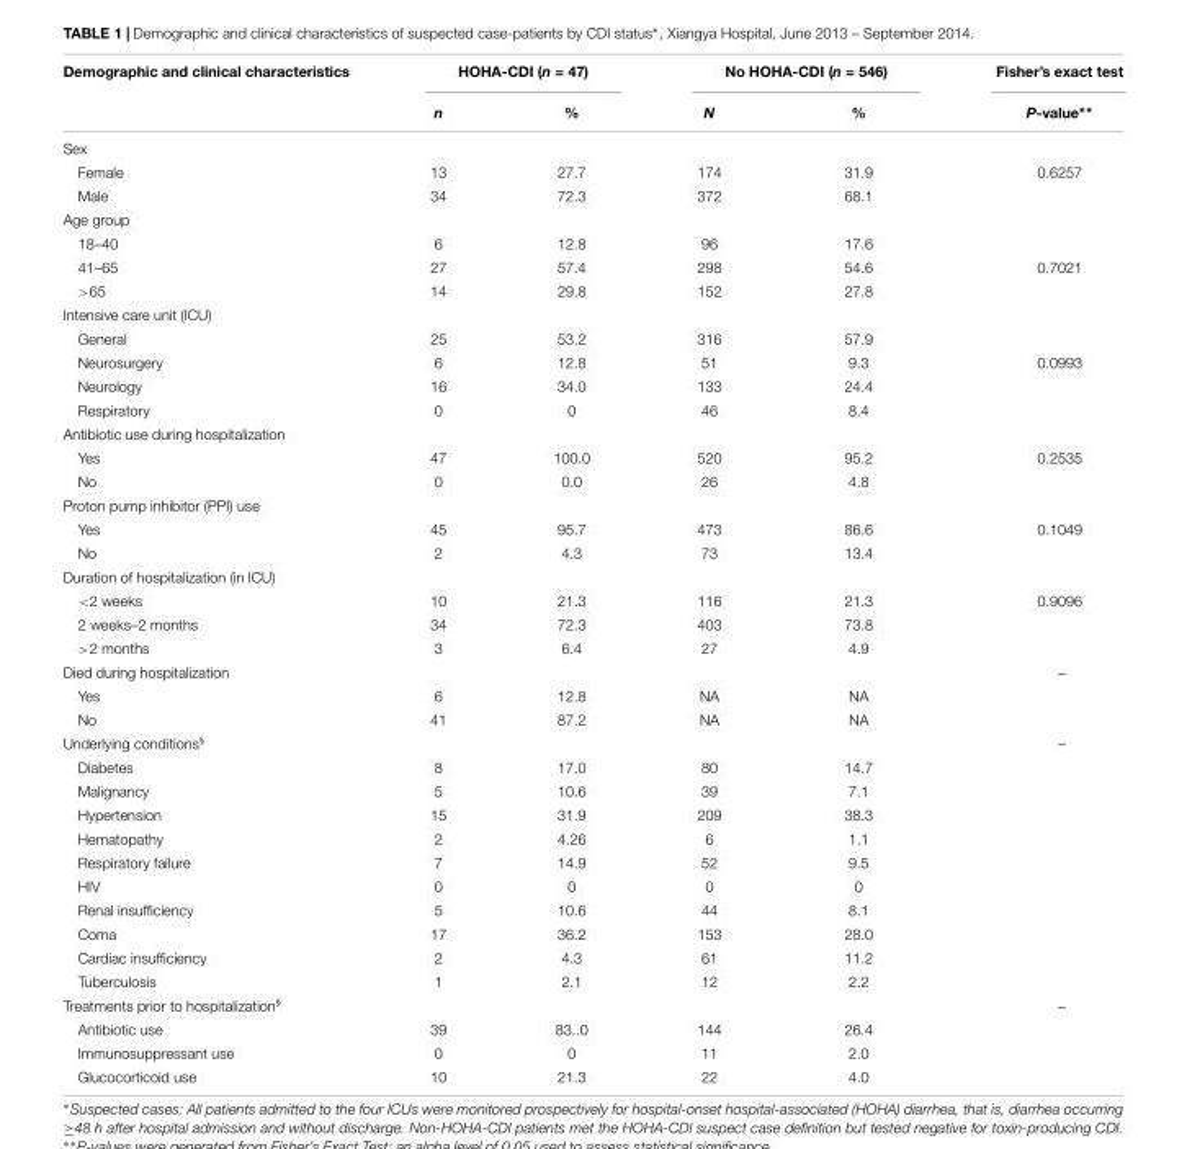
<table><thead><tr><td rowspan="2">Demographic and clinical characteristics</td><td colspan="2">HOHA-CDI (n = 47)</td><td colspan="2">No HOHA-CDI (n = 546)</td><td rowspan="2">Fisher’s exact test P-value∗∗</td></tr><tr><td>n</td><td>%</td><td>N</td><td>%</td></tr></thead><tbody><tr><td colspan="6">Sex</td></tr><tr><td>Female</td><td>13</td><td>27.7</td><td>174</td><td>31.9</td><td>0.6257</td></tr><tr><td>Male</td><td>34</td><td>72.3</td><td>372</td><td>68.1</td><td></td></tr><tr><td colspan="6">Age group</td></tr><tr><td>18–40</td><td>6</td><td>12.8</td><td>96</td><td>17.6</td><td></td></tr><tr><td>41–65</td><td>27</td><td>57.4</td><td>298</td><td>54.6</td><td>0.7021</td></tr><tr><td>&gt;65</td><td>14</td><td>29.8</td><td>152</td><td>27.8</td><td></td></tr><tr><td colspan="6">Intensive care unit (ICU)</td></tr><tr><td>General</td><td>25</td><td>53.2</td><td>316</td><td>57.9</td><td></td></tr><tr><td>Neurosurgery</td><td>6</td><td>12.8</td><td>51</td><td>9.3</td><td>0.0993</td></tr><tr><td>Neurology</td><td>16</td><td>34.0</td><td>133</td><td>24.4</td><td></td></tr><tr><td>Respiratory</td><td>0</td><td>0</td><td>46</td><td>8.4</td><td></td></tr><tr><td colspan="6">Antibiotic use during hospitalization</td></tr><tr><td>Yes</td><td>47</td><td>100.0</td><td>520</td><td>95.2</td><td>0.2535</td></tr><tr><td>No</td><td>0</td><td>0.0</td><td>26</td><td>4.8</td><td></td></tr><tr><td colspan="6">Proton pump inhibitor (PPI) use</td></tr><tr><td>Yes</td><td>45</td><td>95.7</td><td>473</td><td>86.6</td><td>0.1049</td></tr><tr><td>No</td><td>2</td><td>4.3</td><td>73</td><td>13.4</td><td></td></tr><tr><td colspan="6">Duration of hospitalization (in ICU)</td></tr><tr><td>&lt;2 weeks</td><td>10</td><td>21.3</td><td>116</td><td>21.3</td><td>0.9096</td></tr><tr><td>2 weeks–2 months</td><td>34</td><td>72.3</td><td>403</td><td>73.8</td><td></td></tr><tr><td>&gt;2 months</td><td>3</td><td>6.4</td><td>27</td><td>4.9</td><td></td></tr><tr><td>Died during hospitalization</td><td></td><td></td><td></td><td></td><td>–</td></tr><tr><td>Yes</td><td>6</td><td>12.8</td><td>NA</td><td>NA</td><td></td></tr><tr><td>No</td><td>41</td><td>87.2</td><td>NA</td><td>NA</td><td></td></tr><tr><td>Underlying conditions<sup>§</sup></td><td></td><td></td><td></td><td></td><td>–</td></tr><tr><td>Diabetes</td><td>8</td><td>17.0</td><td>80</td><td>14.7</td><td></td></tr><tr><td>Malignancy</td><td>5</td><td>10.6</td><td>39</td><td>7.1</td><td></td></tr><tr><td>Hypertension</td><td>15</td><td>31.9</td><td>209</td><td>38.3</td><td></td></tr><tr><td>Hematopathy</td><td>2</td><td>4.26</td><td>6</td><td>1.1</td><td></td></tr><tr><td>Respiratory failure</td><td>7</td><td>14.9</td><td>52</td><td>9.5</td><td></td></tr><tr><td>HIV</td><td>0</td><td>0</td><td>0</td><td>0</td><td></td></tr><tr><td>Renal insufficiency</td><td>5</td><td>10.6</td><td>44</td><td>8.1</td><td></td></tr><tr><td>Coma</td><td>17</td><td>36.2</td><td>153</td><td>28.0</td><td></td></tr><tr><td>Cardiac insufficiency</td><td>2</td><td>4.3</td><td>61</td><td>11.2</td><td></td></tr><tr><td>Tuberculosis</td><td>1</td><td>2.1</td><td>12</td><td>2.2</td><td></td></tr><tr><td>Treatments prior to hospitalization<sup>§</sup></td><td></td><td></td><td></td><td></td><td>–</td></tr><tr><td>Antibiotic use</td><td>39</td><td>83..0</td><td>144</td><td>26.4</td><td></td></tr><tr><td>Immunosuppressant use</td><td>0</td><td>0</td><td>11</td><td>2.0</td><td></td></tr><tr><td>Glucocorticoid use</td><td>10</td><td>21.3</td><td>22</td><td>4.0</td><td></td></tr></tbody></table>